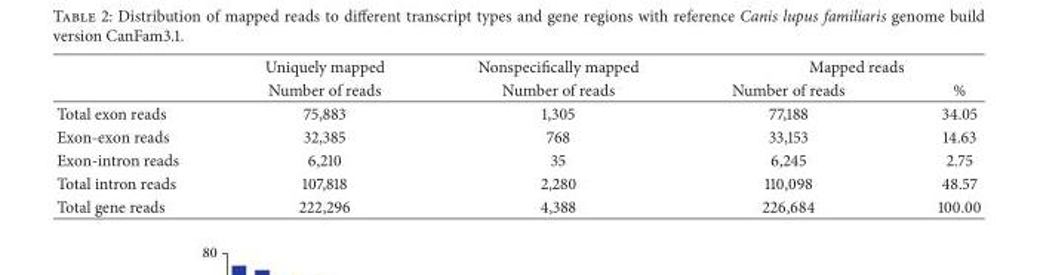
<table><thead><tr><td rowspan="2"></td><td rowspan="2">Uniquely mapped Number of reads</td><td rowspan="2">Nonspecifically mapped Number of reads</td><td colspan="2">Mapped reads</td></tr><tr><td>Number of reads</td><td>%</td></tr></thead><tbody><tr><td>Total exon reads</td><td>75,883</td><td>1,305</td><td>77,188</td><td>34.05</td></tr><tr><td>Exon-exon reads</td><td>32,385</td><td>768</td><td>33,153</td><td>14.63</td></tr><tr><td>Exon-intron reads</td><td>6,210</td><td>35</td><td>6,245</td><td>2.75</td></tr><tr><td>Total intron reads</td><td>107,818</td><td>2,280</td><td>110,098</td><td>48.57</td></tr><tr><td>Total gene reads</td><td>222,296</td><td>4,388</td><td>226,684</td><td>100.00</td></tr></tbody></table>